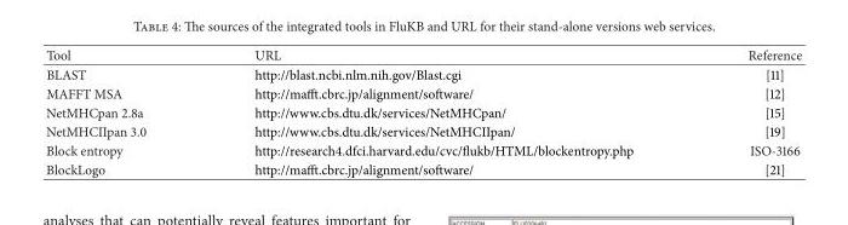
<table><thead><tr><td>Tool</td><td>URL</td><td>Reference</td></tr></thead><tbody><tr><td>BLAST</td><td>http://blast.ncbi.nlm.nih.gov/Blast.cgi</td><td>[11]</td></tr><tr><td>MAFFT MSA</td><td>http://mafft.cbrc.jp/alignment/software/</td><td>[12]</td></tr><tr><td>NetMHCpan 2.8a</td><td>http://www.cbs.dtu.dk/services/NetMHCpan/</td><td>[15]</td></tr><tr><td>NetMHCIIpan 3.0</td><td>http://www.cbs.dtu.dk/services/NetMHCIIpan/</td><td>[19]</td></tr><tr><td>Block entropy</td><td>http://research4.dfci.harvard.edu/cvc/flukb/HTML/blockentropy.php</td><td>ISO-3166</td></tr><tr><td>BlockLogo</td><td>http://mafft.cbrc.jp/alignment/software/</td><td>[21]</td></tr></tbody></table>